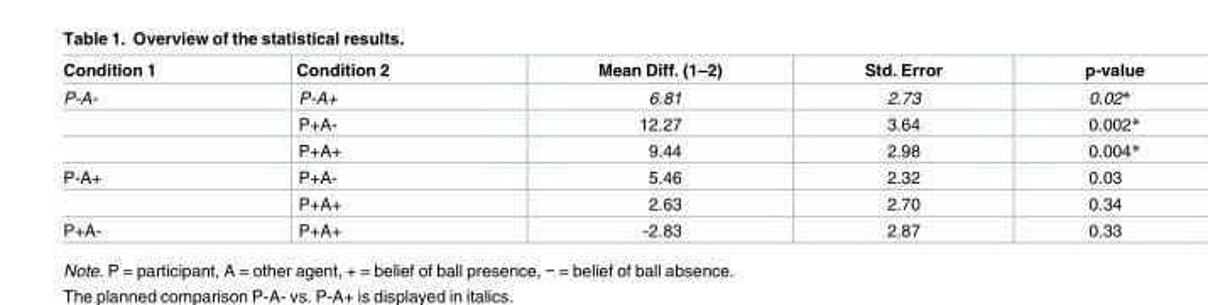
<table><thead><tr><td>Condition 1</td><td>Condition 2</td><td>Mean Diff. (1–2)</td><td>Std. Error</td><td>p-value</td></tr></thead><tbody><tr><td rowspan="3">P-A-</td><td>P-A+</td><td>6.81</td><td>2.73</td><td>0.02*</td></tr><tr><td>P+A-</td><td>12.27</td><td>3.64</td><td>0.002*</td></tr><tr><td>P+A+</td><td>9.44</td><td>2.98</td><td>0.004*</td></tr><tr><td rowspan="2">P-A+</td><td>P+A-</td><td>5.46</td><td>2.32</td><td>0.03</td></tr><tr><td>P+A+</td><td>2.63</td><td>2.70</td><td>0.34</td></tr><tr><td>P+A-</td><td>P+A+</td><td>-2.83</td><td>2.87</td><td>0.33</td></tr></tbody></table>